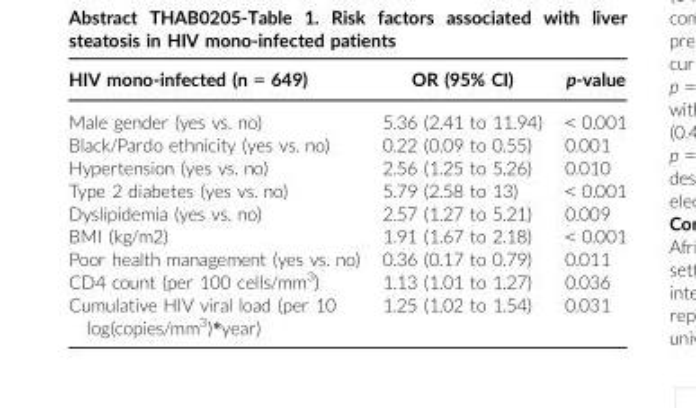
<table><thead><tr><td>HIV mono-infected (n = 649)</td><td>OR (95% CI)</td><td>p-value</td></tr></thead><tbody><tr><td>Male gender (yes vs. no)</td><td>5.36 (2.41 to 11.94)</td><td>&lt; 0.001</td></tr><tr><td>Black/Pardo ethnicity (yes vs. no)</td><td>0.22 (0.09 to 0.55)</td><td>0.001</td></tr><tr><td>Hypertension (yes vs. no)</td><td>2.56 (1.25 to 5.26)</td><td>0.010</td></tr><tr><td>Type 2 diabetes (yes vs. no)</td><td>5.79 (2.58 to 13)</td><td>&lt; 0.001</td></tr><tr><td>Dyslipidemia (yes vs. no)</td><td>2.57 (1.27 to 5.21)</td><td>0.009</td></tr><tr><td>BMI (kg/m2)</td><td>1.91 (1.67 to 2.18)</td><td>&lt; 0.001</td></tr><tr><td>Poor health management (yes vs. no)</td><td>0.36 (0.17 to 0.79)</td><td>0.011</td></tr><tr><td>CD4 count (per 100 cells/mm<sup>3</sup>)</td><td>1.13 (1.01 to 1.27)</td><td>0.036</td></tr><tr><td>Cumulative HIV viral load (per 10 log(copies/mm<sup>3</sup>)*year)</td><td>1.25 (1.02 to 1.54)</td><td>0.031</td></tr></tbody></table>